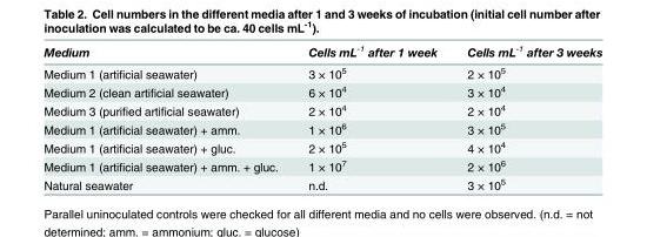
<table><thead><tr><td>Medium</td><td>Cells mL<sup>-1</sup> after 1 week</td><td>Cells mL<sup>-1</sup> after 3 weeks</td></tr></thead><tbody><tr><td>Medium 1 (artificial seawater)</td><td>3 × 10<sup>5</sup></td><td>2 × 10<sup>5</sup></td></tr><tr><td>Medium 2 (clean artificial seawater)</td><td>6 × 10<sup>4</sup></td><td>3 × 10<sup>4</sup></td></tr><tr><td>Medium 3 (purified artificial seawater)</td><td>2 × 10<sup>4</sup></td><td>2 × 10<sup>4</sup></td></tr><tr><td>Medium 1 (artificial seawater) + amm.</td><td>1 × 10<sup>6</sup></td><td>3 × 10<sup>5</sup></td></tr><tr><td>Medium 1 (artificial seawater) + gluc.</td><td>2 × 10<sup>5</sup></td><td>4 × 10<sup>4</sup></td></tr><tr><td>Medium 1 (artificial seawater) + amm. + gluc.</td><td>1 × 10<sup>7</sup></td><td>2 × 10<sup>6</sup></td></tr><tr><td>Natural seawater</td><td>n.d.</td><td>3 × 10<sup>5</sup></td></tr></tbody></table>